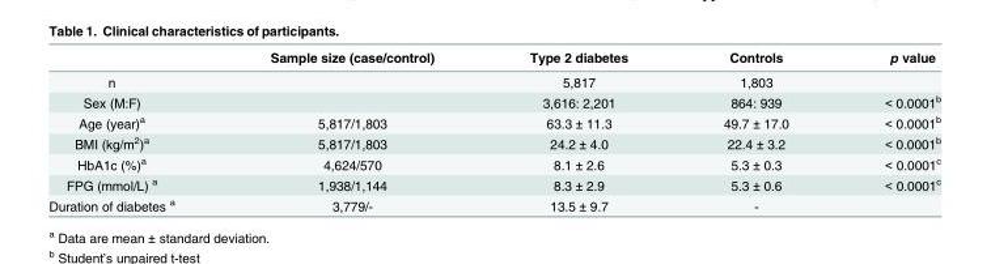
<table><thead><tr><td></td><td>Sample size (case/control)</td><td>Type 2 diabetes</td><td>Controls</td><td>p value</td></tr></thead><tbody><tr><td>n</td><td></td><td>5,817</td><td>1,803</td><td></td></tr><tr><td>Sex (M:F)</td><td></td><td>3,616: 2,201</td><td>864: 939</td><td>&lt; 0.0001<sup>b</sup></td></tr><tr><td>Age (year)<sup>a</sup></td><td>5,817/1,803</td><td>63.3 ± 11.3</td><td>49.7 ± 17.0</td><td>&lt; 0.0001<sup>b</sup></td></tr><tr><td>BMI (kg/m<sup>2</sup>)<sup>a</sup></td><td>5,817/1,803</td><td>24.2 ± 4.0</td><td>22.4 ± 3.2</td><td>&lt; 0.0001<sup>b</sup></td></tr><tr><td>HbA1c (%)<sup>a</sup></td><td>4,624/570</td><td>8.1 ± 2.6</td><td>5.3 ± 0.3</td><td>&lt; 0.0001<sup>c</sup></td></tr><tr><td>FPG (mmol/L) <sup>a</sup></td><td>1,938/1,144</td><td>8.3 ± 2.9</td><td>5.3 ± 0.6</td><td>&lt; 0.0001<sup>c</sup></td></tr><tr><td>Duration of diabetes <sup>a</sup></td><td>3,779/-</td><td>13.5 ± 9.7</td><td>-</td><td></td></tr></tbody></table>